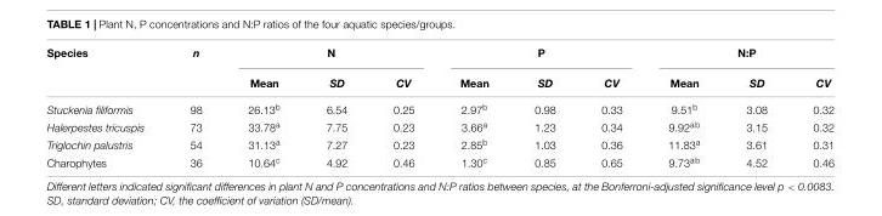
<table><thead><tr><td rowspan="2">Species</td><td rowspan="2">n</td><td colspan="3">N</td><td colspan="3">P</td><td colspan="3">N:P</td></tr><tr><td>Mean</td><td>SD</td><td>CV</td><td>Mean</td><td>SD</td><td>CV</td><td>Mean</td><td>SD</td><td>CV</td></tr></thead><tbody><tr><td>Stuckenia filiformis</td><td>98</td><td>26.13<sup>b</sup></td><td>6.54</td><td>0.25</td><td>2.97<sup>b</sup></td><td>0.98</td><td>0.33</td><td>9.51<sup>b</sup></td><td>3.08</td><td>0.32</td></tr><tr><td>Halerpestes tricuspis</td><td>73</td><td>33.78<sup>a</sup></td><td>7.75</td><td>0.23</td><td>3.66<sup>a</sup></td><td>1.23</td><td>0.34</td><td>9.92<sup>ab</sup></td><td>3.15</td><td>0.32</td></tr><tr><td>Triglochin palustris</td><td>54</td><td>31.13<sup>a</sup></td><td>7.27</td><td>0.23</td><td>2.85<sup>b</sup></td><td>1.03</td><td>0.36</td><td>11.83<sup>a</sup></td><td>3.61</td><td>0.31</td></tr><tr><td>Charophytes</td><td>36</td><td>10.64<sup>c</sup></td><td>4.92</td><td>0.46</td><td>1.30<sup>c</sup></td><td>0.85</td><td>0.65</td><td>9.73<sup>ab</sup></td><td>4.52</td><td>0.46</td></tr></tbody></table>